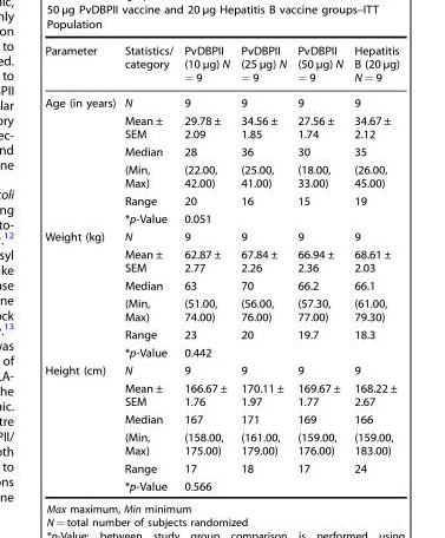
<table><thead><tr><td>Parameter</td><td>Statistics/ category</td><td>PvDBPII (10 µg) N = 9</td><td>PvDBPII (25 µg) N = 9</td><td>PvDBPII (50 µg) N = 9</td><td>Hepatitis B (20 µg) N = 9</td></tr></thead><tbody><tr><td rowspan="6">Age (in years)</td><td>N</td><td>9</td><td>9</td><td>9</td><td>9</td></tr><tr><td>Mean ± SEM</td><td>29.78 ± 2.09</td><td>34.56 ± 1.85</td><td>27.56 ± 1.74</td><td>34.67 ± 2.12</td></tr><tr><td>Median</td><td>28</td><td>36</td><td>30</td><td>35</td></tr><tr><td>(Min, Max)</td><td>(22.00, 42.00)</td><td>(25.00, 41.00)</td><td>(18.00, 33.00)</td><td>(26.00, 45.00)</td></tr><tr><td>Range</td><td>20</td><td>16</td><td>15</td><td>19</td></tr><tr><td>*p-Value</td><td colspan="4">0.051</td></tr><tr><td rowspan="6">Weight (kg)</td><td>N</td><td>9</td><td>9</td><td>9</td><td>9</td></tr><tr><td>Mean ± SEM</td><td>62.87 ± 2.77</td><td>67.84 ± 2.26</td><td>66.94 ± 2.36</td><td>68.61 ± 2.03</td></tr><tr><td>Median</td><td>63</td><td>70</td><td>66.2</td><td>66.1</td></tr><tr><td>(Min, Max)</td><td>(51.00, 74.00)</td><td>(56.00, 76.00)</td><td>(57.30, 77.00)</td><td>(61.00, 79.30)</td></tr><tr><td>Range</td><td>23</td><td>20</td><td>19.7</td><td>18.3</td></tr><tr><td>*p-Value</td><td colspan="4">0.442</td></tr><tr><td rowspan="6">Height (cm)</td><td>N</td><td>9</td><td>9</td><td>9</td><td>9</td></tr><tr><td>Mean ± SEM</td><td>166.67 ± 1.76</td><td>170.11 ± 1.97</td><td>169.67 ± 1.77</td><td>168.22 ± 2.67</td></tr><tr><td>Median</td><td>167</td><td>171</td><td>169</td><td>166</td></tr><tr><td>(Min, Max)</td><td>(158.00, 175.00)</td><td>(161.00, 179.00)</td><td>(159.00, 176.00)</td><td>(159.00, 183.00)</td></tr><tr><td>Range</td><td>17</td><td>18</td><td>17</td><td>24</td></tr><tr><td>*p-Value</td><td colspan="4">0.566</td></tr></tbody></table>